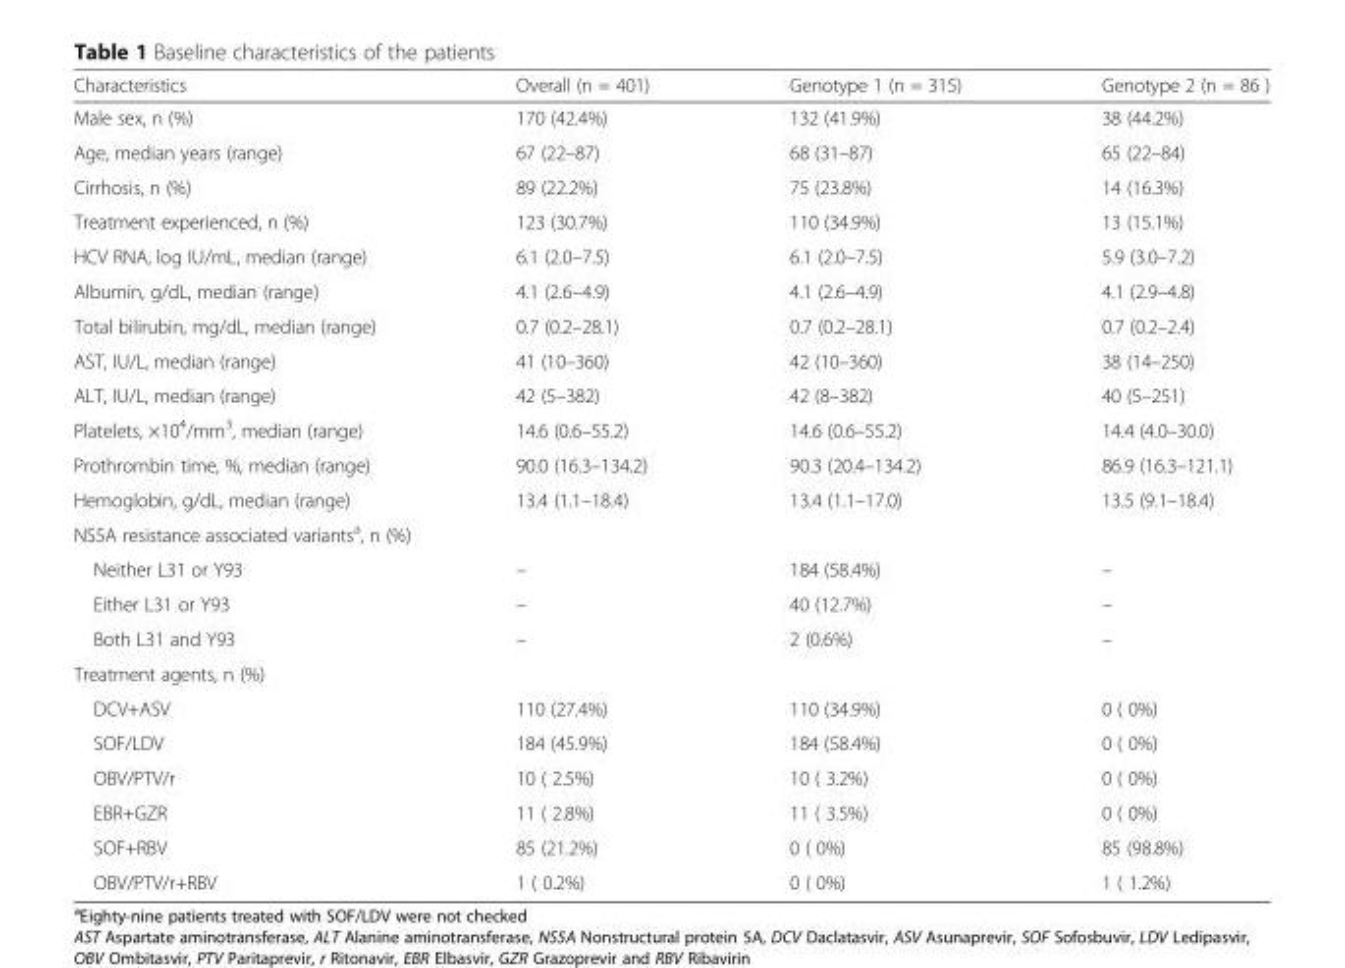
<table><thead><tr><td>Characteristics</td><td>Overall (n = 401)</td><td>Genotype 1 (n = 315)</td><td>Genotype 2 (n = 86 )</td></tr></thead><tbody><tr><td>Male sex, n (%)</td><td>170 (42.4%)</td><td>132 (41.9%)</td><td>38 (44.2%)</td></tr><tr><td>Age, median years (range)</td><td>67 (22–87)</td><td>68 (31–87)</td><td>65 (22–84)</td></tr><tr><td>Cirrhosis, n (%)</td><td>89 (22.2%)</td><td>75 (23.8%)</td><td>14 (16.3%)</td></tr><tr><td>Treatment experienced, n (%)</td><td>123 (30.7%)</td><td>110 (34.9%)</td><td>13 (15.1%)</td></tr><tr><td>HCV RNA, log IU/mL, median (range)</td><td>6.1 (2.0–7.5)</td><td>6.1 (2.0–7.5)</td><td>5.9 (3.0–7.2)</td></tr><tr><td>Albumin, g/dL, median (range)</td><td>4.1 (2.6–4.9)</td><td>4.1 (2.6–4.9)</td><td>4.1 (2.9–4.8)</td></tr><tr><td>Total bilirubin, mg/dL, median (range)</td><td>0.7 (0.2–28.1)</td><td>0.7 (0.2–28.1)</td><td>0.7 (0.2–2.4)</td></tr><tr><td>AST, IU/L, median (range)</td><td>41 (10–360)</td><td>42 (10–360)</td><td>38 (14–250)</td></tr><tr><td>ALT, IU/L, median (range)</td><td>42 (5–382)</td><td>42 (8–382)</td><td>40 (5–251)</td></tr><tr><td>Platelets, ×10<sup>4</sup>/mm<sup>3</sup>, median (range)</td><td>14.6 (0.6–55.2)</td><td>14.6 (0.6–55.2)</td><td>14.4 (4.0–30.0)</td></tr><tr><td>Prothrombin time, %, median (range)</td><td>90.0 (16.3–134.2)</td><td>90.3 (20.4–134.2)</td><td>86.9 (16.3–121.1)</td></tr><tr><td>Hemoglobin, g/dL, median (range)</td><td>13.4 (1.1–18.4)</td><td>13.4 (1.1–17.0)</td><td>13.5 (9.1–18.4)</td></tr><tr><td colspan="4">NS5A resistance associated variants<sup>a</sup>, n (%)</td></tr><tr><td>Neither L31 or Y93</td><td>–</td><td>184 (58.4%)</td><td>–</td></tr><tr><td>Either L31 or Y93</td><td>–</td><td>40 (12.7%)</td><td>–</td></tr><tr><td>Both L31 and Y93</td><td>–</td><td>2 (0.6%)</td><td>–</td></tr><tr><td colspan="4">Treatment agents, n (%)</td></tr><tr><td>DCV+ASV</td><td>110 (27.4%)</td><td>110 (34.9%)</td><td>0 ( 0%)</td></tr><tr><td>SOF/LDV</td><td>184 (45.9%)</td><td>184 (58.4%)</td><td>0 ( 0%)</td></tr><tr><td>OBV/PTV/r</td><td>10 ( 2.5%)</td><td>10 ( 3.2%)</td><td>0 ( 0%)</td></tr><tr><td>EBR+GZR</td><td>11 ( 2.8%)</td><td>11 ( 3.5%)</td><td>0 ( 0%)</td></tr><tr><td>SOF+RBV</td><td>85 (21.2%)</td><td>0 ( 0%)</td><td>85 (98.8%)</td></tr><tr><td>OBV/PTV/r+RBV</td><td>1 ( 0.2%)</td><td>0 ( 0%)</td><td>1 ( 1.2%)</td></tr></tbody></table>